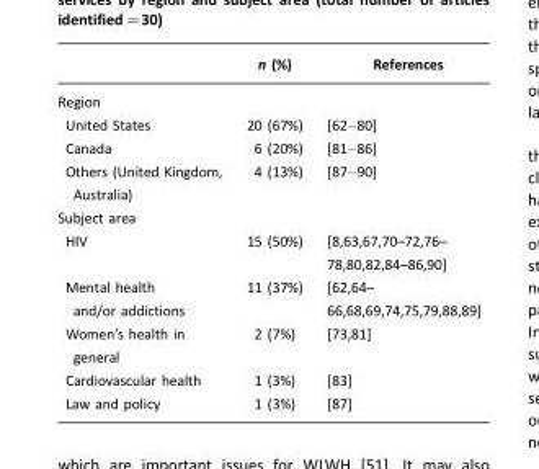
<table><thead><tr><td></td><td>n (%)</td><td>References</td></tr></thead><tbody><tr><td colspan="3">Region</td></tr><tr><td>United States</td><td>20 (67%)</td><td>[62–80]</td></tr><tr><td>Canada</td><td>6 (20%)</td><td>[81–86]</td></tr><tr><td>Others (United Kingdom, Australia)</td><td>4 (13%)</td><td>[87–90]</td></tr><tr><td colspan="3">Subject area</td></tr><tr><td>HIV</td><td>15 (50%)</td><td>[8,63,67,70–72,76– 78,80,82,84–86,90]</td></tr><tr><td>Mental health and/or addictions</td><td>11 (37%)</td><td>[62,64– 66,68,69,74,75,79,88,89]</td></tr><tr><td>Women’s health in general</td><td>2 (7%)</td><td>[73,81]</td></tr><tr><td>Cardiovascular health</td><td>1 (3%)</td><td>[83]</td></tr><tr><td>Law and policy</td><td>1 (3%)</td><td>[87]</td></tr></tbody></table>